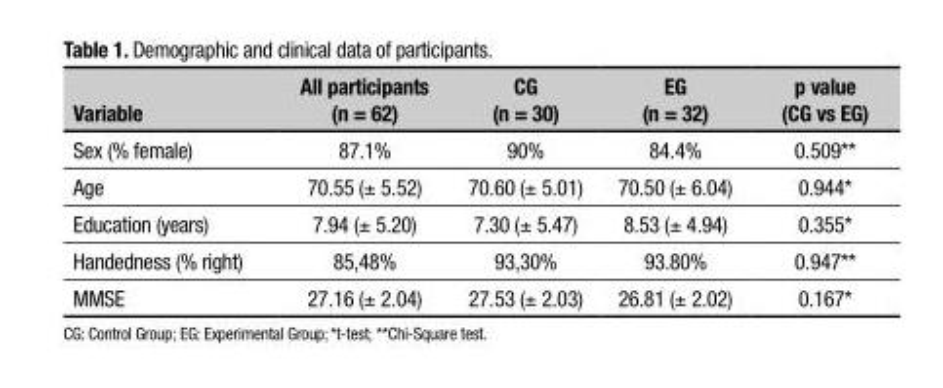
<table><thead><tr><td>Variable</td><td>All participants (n = 62)</td><td>CG (n = 30)</td><td>EG (n = 32)</td><td>p value (CG vs EG)</td></tr></thead><tbody><tr><td>Sex (% female)</td><td>87.1%</td><td>90%</td><td>84.4%</td><td>0.509**</td></tr><tr><td>Age</td><td>70.55 (± 5.52)</td><td>70.60 (± 5.01)</td><td>70.50 (± 6.04)</td><td>0.944*</td></tr><tr><td>Education (years)</td><td>7.94 (± 5.20)</td><td>7.30 (± 5.47)</td><td>8.53 (± 4.94)</td><td>0.355*</td></tr><tr><td>Handedness (% right)</td><td>85,48%</td><td>93,30%</td><td>93.80%</td><td>0.947**</td></tr><tr><td>MMSE</td><td>27.16 (± 2.04)</td><td>27.53 (± 2.03)</td><td>26.81 (± 2.02)</td><td>0.167*</td></tr></tbody></table>